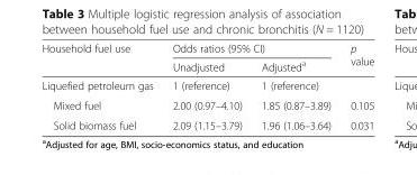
<table><thead><tr><td rowspan="2">Household fuel use</td><td colspan="2">Odds ratios (95% CI)</td><td rowspan="2">p value</td></tr><tr><td>Unadjusted</td><td>Adjusted<sup>a</sup></td></tr></thead><tbody><tr><td>Liquefied petroleum gas</td><td>1 (reference)</td><td>1 (reference)</td><td></td></tr><tr><td>Mixed fuel</td><td>2.00 (0.97–4.10)</td><td>1.85 (0.87–3.89)</td><td>0.105</td></tr><tr><td>Solid biomass fuel</td><td>2.09 (1.15–3.79)</td><td>1.96 (1.06–3.64)</td><td>0.031</td></tr></tbody></table>